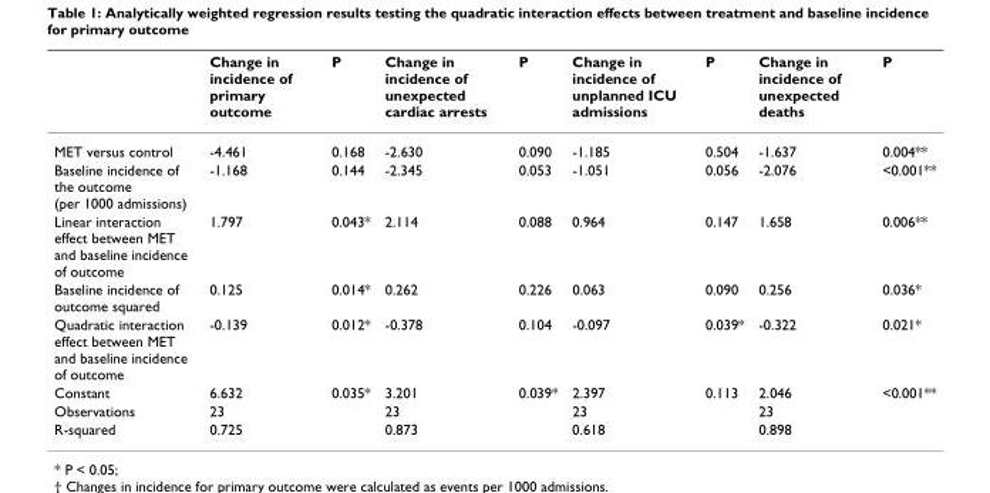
<table><thead><tr><td></td><td>Change in incidence of primary outcome</td><td>P</td><td>Change in incidence of unexpected cardiac arrests</td><td>P</td><td>Change in incidence of unplanned ICU admissions</td><td>P</td><td>Change in incidence of unexpected deaths</td><td>P</td></tr></thead><tbody><tr><td>MET versus control</td><td>-4.461</td><td>0.168</td><td>-2.630</td><td>0.090</td><td>-1.185</td><td>0.504</td><td>-1.637</td><td>0.004**</td></tr><tr><td>Baseline incidence of the outcome (per 1000 admissions)</td><td>-1.168</td><td>0.144</td><td>-2.345</td><td>0.053</td><td>-1.051</td><td>0.056</td><td>-2.076</td><td>&lt;0.001**</td></tr><tr><td>Linear interaction effect between MET and baseline incidence of outcome</td><td>1.797</td><td>0.043*</td><td>2.114</td><td>0.088</td><td>0.964</td><td>0.147</td><td>1.658</td><td>0.006**</td></tr><tr><td>Baseline incidence of outcome squared</td><td>0.125</td><td>0.014*</td><td>0.262</td><td>0.226</td><td>0.063</td><td>0.090</td><td>0.256</td><td>0.036*</td></tr><tr><td>Quadratic interaction effect between MET and baseline incidence of outcome</td><td>-0.139</td><td>0.012*</td><td>-0.378</td><td>0.104</td><td>-0.097</td><td>0.039*</td><td>-0.322</td><td>0.021*</td></tr><tr><td>Constant</td><td>6.632</td><td>0.035*</td><td>3.201</td><td>0.039*</td><td>2.397</td><td>0.113</td><td>2.046</td><td>&lt;0.001**</td></tr><tr><td>Observations</td><td>23</td><td></td><td>23</td><td></td><td>23</td><td></td><td>23</td><td></td></tr><tr><td>R-squared</td><td>0.725</td><td></td><td>0.873</td><td></td><td>0.618</td><td></td><td>0.898</td><td></td></tr></tbody></table>